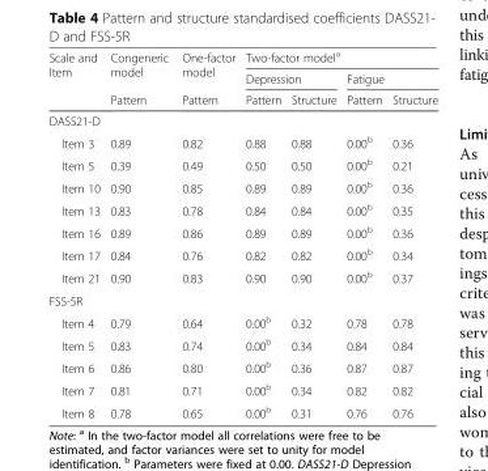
<table><thead><tr><td rowspan="3">Scale and Item</td><td rowspan="3">Congeneric model Pattern</td><td rowspan="3">One-factor model Pattern</td><td colspan="4">Two-factor model<sup>a</sup></td></tr><tr><td colspan="2">Depression</td><td colspan="2">Fatigue</td></tr><tr><td>Pattern</td><td>Structure</td><td>Pattern</td><td>Structure</td></tr></thead><tbody><tr><td colspan="7">DASS21-D</td></tr><tr><td>Item 3</td><td>0.89</td><td>0.82</td><td>0.88</td><td>0.88</td><td>0.00<sup>b</sup></td><td>0.36</td></tr><tr><td>Item 5</td><td>0.39</td><td>0.49</td><td>0.50</td><td>0.50</td><td>0.00<sup>b</sup></td><td>0.21</td></tr><tr><td>Item 10</td><td>0.90</td><td>0.85</td><td>0.89</td><td>0.89</td><td>0.00<sup>b</sup></td><td>0.36</td></tr><tr><td>Item 13</td><td>0.83</td><td>0.78</td><td>0.84</td><td>0.84</td><td>0.00<sup>b</sup></td><td>0.35</td></tr><tr><td>Item 16</td><td>0.89</td><td>0.86</td><td>0.89</td><td>0.89</td><td>0.00<sup>b</sup></td><td>0.36</td></tr><tr><td>Item 17</td><td>0.84</td><td>0.76</td><td>0.82</td><td>0.82</td><td>0.00<sup>b</sup></td><td>0.34</td></tr><tr><td>Item 21</td><td>0.90</td><td>0.83</td><td>0.90</td><td>0.90</td><td>0.00<sup>b</sup></td><td>0.37</td></tr><tr><td colspan="7">FSS-5R</td></tr><tr><td>Item 4</td><td>0.79</td><td>0.64</td><td>0.00<sup>b</sup></td><td>0.32</td><td>0.78</td><td>0.78</td></tr><tr><td>Item 5</td><td>0.83</td><td>0.74</td><td>0.00<sup>b</sup></td><td>0.34</td><td>0.84</td><td>0.84</td></tr><tr><td>Item 6</td><td>0.86</td><td>0.80</td><td>0.00<sup>b</sup></td><td>0.36</td><td>0.87</td><td>0.87</td></tr><tr><td>Item 7</td><td>0.81</td><td>0.71</td><td>0.00<sup>b</sup></td><td>0.34</td><td>0.82</td><td>0.82</td></tr><tr><td>Item 8</td><td>0.78</td><td>0.65</td><td>0.00<sup>b</sup></td><td>0.31</td><td>0.76</td><td>0.76</td></tr></tbody></table>